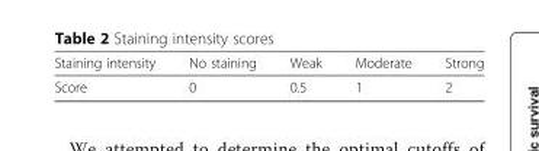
<table><thead><tr><td>Staining intensity</td><td>No staining</td><td>Weak</td><td>Moderate</td><td>Strong</td></tr></thead><tbody><tr><td>Score</td><td>0</td><td>0.5</td><td>1</td><td>2</td></tr></tbody></table>